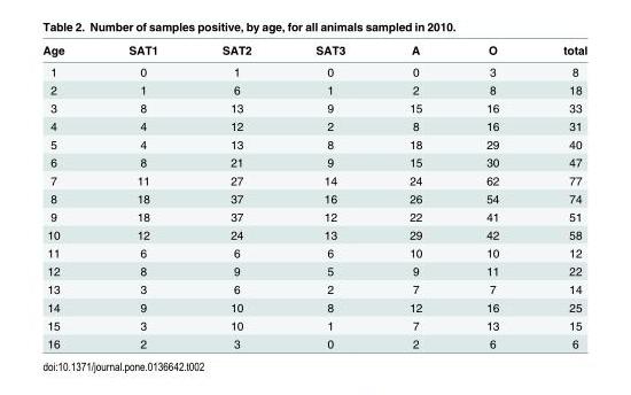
<table><thead><tr><td>Age</td><td>SAT1</td><td>SAT2</td><td>SAT3</td><td>A</td><td>O</td><td>total</td></tr></thead><tbody><tr><td>1</td><td>0</td><td>1</td><td>0</td><td>0</td><td>3</td><td>8</td></tr><tr><td>2</td><td>1</td><td>6</td><td>1</td><td>2</td><td>8</td><td>18</td></tr><tr><td>3</td><td>8</td><td>13</td><td>9</td><td>15</td><td>16</td><td>33</td></tr><tr><td>4</td><td>4</td><td>12</td><td>2</td><td>8</td><td>16</td><td>31</td></tr><tr><td>5</td><td>4</td><td>13</td><td>8</td><td>18</td><td>29</td><td>40</td></tr><tr><td>6</td><td>8</td><td>21</td><td>9</td><td>15</td><td>30</td><td>47</td></tr><tr><td>7</td><td>11</td><td>27</td><td>14</td><td>24</td><td>62</td><td>77</td></tr><tr><td>8</td><td>18</td><td>37</td><td>16</td><td>26</td><td>54</td><td>74</td></tr><tr><td>9</td><td>18</td><td>37</td><td>12</td><td>22</td><td>41</td><td>51</td></tr><tr><td>10</td><td>12</td><td>24</td><td>13</td><td>29</td><td>42</td><td>58</td></tr><tr><td>11</td><td>6</td><td>6</td><td>6</td><td>10</td><td>10</td><td>12</td></tr><tr><td>12</td><td>8</td><td>9</td><td>5</td><td>9</td><td>11</td><td>22</td></tr><tr><td>13</td><td>3</td><td>6</td><td>2</td><td>7</td><td>7</td><td>14</td></tr><tr><td>14</td><td>9</td><td>10</td><td>8</td><td>12</td><td>16</td><td>25</td></tr><tr><td>15</td><td>3</td><td>10</td><td>1</td><td>7</td><td>13</td><td>15</td></tr><tr><td>16</td><td>2</td><td>3</td><td>0</td><td>2</td><td>6</td><td>6</td></tr></tbody></table>